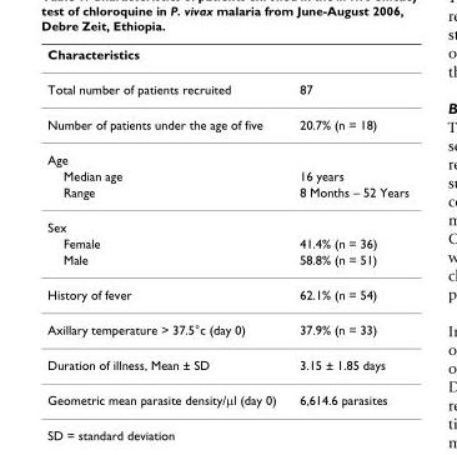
<table><thead><tr><td>Characteristics</td><td></td></tr></thead><tbody><tr><td>Total number of patients recruited</td><td>87</td></tr><tr><td>Number of patients under the age of five</td><td>20.7% (n = 18)</td></tr><tr><td colspan="2">Age</td></tr><tr><td>Median age</td><td>16 years</td></tr><tr><td>Range</td><td>8 Months – 52 Years</td></tr><tr><td colspan="2">Sex</td></tr><tr><td>Female</td><td>41.4% (n = 36)</td></tr><tr><td>Male</td><td>58.8% (n = 51)</td></tr><tr><td>History of fever</td><td>62.1% (n = 54)</td></tr><tr><td>Axillary temperature &gt; 37.5°c (day 0)</td><td>37.9% (n = 33)</td></tr><tr><td>Duration of illness, Mean ± SD</td><td>3.15 ± 1.85 days</td></tr><tr><td>Geometric mean parasite density/μl (day 0)</td><td>6,614.6 parasites</td></tr></tbody></table>